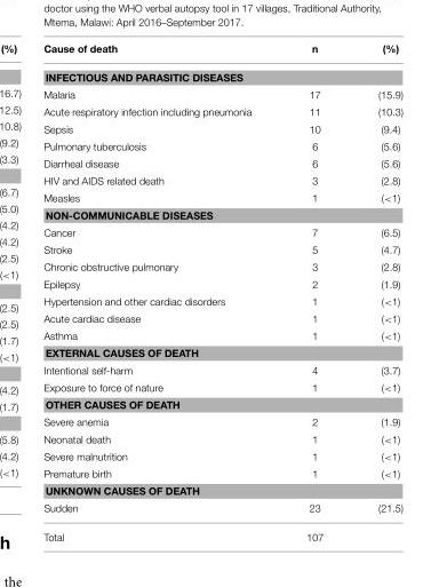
<table><thead><tr><td>Cause of death</td><td>n</td><td>(%)</td></tr></thead><tbody><tr><td colspan="3">INFECTIOUS AND PARASITIC DISEASES</td></tr><tr><td>Malaria</td><td>17</td><td>(15.9)</td></tr><tr><td>Acute respiratory infection including pneumonia</td><td>11</td><td>(10.3)</td></tr><tr><td>Sepsis</td><td>10</td><td>(9.4)</td></tr><tr><td>Pulmonary tuberculosis</td><td>6</td><td>(5.6)</td></tr><tr><td>Diarrheal disease</td><td>6</td><td>(5.6)</td></tr><tr><td>HIV and AIDS related death</td><td>3</td><td>(2.8)</td></tr><tr><td>Measles</td><td>1</td><td>(&lt;1)</td></tr><tr><td colspan="3">NON-COMMUNICABLE DISEASES</td></tr><tr><td>Cancer</td><td>7</td><td>(6.5)</td></tr><tr><td>Stroke</td><td>5</td><td>(4.7)</td></tr><tr><td>Chronic obstructive pulmonary</td><td>3</td><td>(2.8)</td></tr><tr><td>Epilepsy</td><td>2</td><td>(1.9)</td></tr><tr><td>Hypertension and other cardiac disorders</td><td>1</td><td>(&lt;1)</td></tr><tr><td>Acute cardiac disease</td><td>1</td><td>(&lt;1)</td></tr><tr><td>Asthma</td><td>1</td><td>(&lt;1)</td></tr><tr><td colspan="3">EXTERNAL CAUSES OF DEATH</td></tr><tr><td>Intentional self-harm</td><td>4</td><td>(3.7)</td></tr><tr><td>Exposure to force of nature</td><td>1</td><td>(&lt;1)</td></tr><tr><td colspan="3">OTHER CAUSES OF DEATH</td></tr><tr><td>Severe anemia</td><td>2</td><td>(1.9)</td></tr><tr><td>Neonatal death</td><td>1</td><td>(&lt;1)</td></tr><tr><td>Severe malnutrition</td><td>1</td><td>(&lt;1)</td></tr><tr><td>Premature birth</td><td>1</td><td>(&lt;1)</td></tr><tr><td colspan="3">UNKNOWN CAUSES OF DEATH</td></tr><tr><td>Sudden</td><td>23</td><td>(21.5)</td></tr><tr><td>Total</td><td>107</td><td></td></tr></tbody></table>